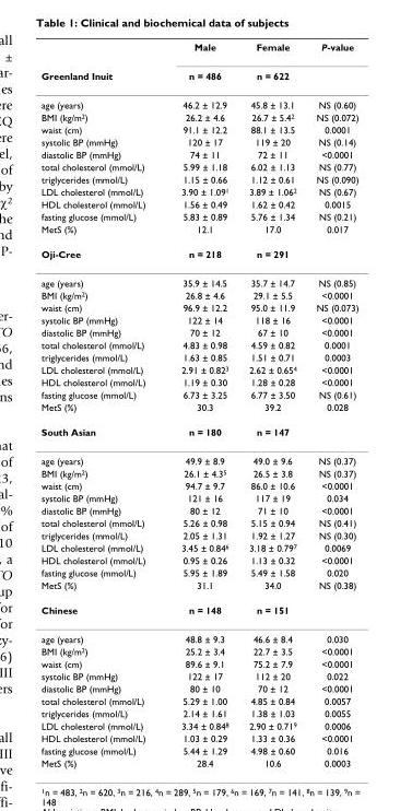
<table><thead><tr><td rowspan="2">Greenland Inuit</td><td rowspan="2">Male n = 486</td><td rowspan="2">Female n = 622</td><td rowspan="2">P-value</td></tr><tr></tr></thead><tbody><tr><td>age (years)</td><td>46.2 ± 12.9</td><td>45.8 ± 13.1</td><td>NS (0.60)</td></tr><tr><td>BMI (kg/m<sup>2</sup>)</td><td>26.2 ± 4.6</td><td>26.7 ± 5.4<sup>2</sup></td><td>NS (0.072)</td></tr><tr><td>waist (cm)</td><td>91.1 ± 12.2</td><td>88.1 ± 13.5</td><td>0.0001</td></tr><tr><td>systolic BP (mmHg)</td><td>120 ± 17</td><td>119 ± 20</td><td>NS (0.14)</td></tr><tr><td>diastolic BP (mmHg)</td><td>74 ± 11</td><td>72 ± 11</td><td>&lt;0.0001</td></tr><tr><td>total cholesterol (mmol/L)</td><td>5.99 ± 1.18</td><td>6.02 ± 1.13</td><td>NS (0.77)</td></tr><tr><td>triglycerides (mmol/L)</td><td>1.15 ± 0.66</td><td>1.12 ± 0.61</td><td>NS (0.090)</td></tr><tr><td>LDL cholesterol (mmol/L)</td><td>3.90 ± 1.09<sup>1</sup></td><td>3.89 ± 1.06<sup>2</sup></td><td>NS (0.67)</td></tr><tr><td>HDL cholesterol (mmol/L)</td><td>1.56 ± 0.49</td><td>1.62 ± 0.42</td><td>0.0015</td></tr><tr><td>fasting glucose (mmol/L)</td><td>5.83 ± 0.89</td><td>5.76 ± 1.34</td><td>NS (0.21)</td></tr><tr><td>MetS (%)</td><td>12.1</td><td>17.0</td><td>0.017</td></tr><tr><td>Oji-Cree</td><td>n = 218</td><td>n = 291</td><td></td></tr><tr><td>age (years)</td><td>35.9 ± 14.5</td><td>35.7 ± 14.7</td><td>NS (0.85)</td></tr><tr><td>BMI (kg/m<sup>2</sup>)</td><td>26.8 ± 4.6</td><td>29.1 ± 5.5</td><td>&lt;0.0001</td></tr><tr><td>waist (cm)</td><td>96.9 ± 12.2</td><td>95.0 ± 11.9</td><td>NS (0.073)</td></tr><tr><td>systolic BP (mmHg)</td><td>122 ± 14</td><td>118 ± 16</td><td>&lt;0.0001</td></tr><tr><td>diastolic BP (mmHg)</td><td>70 ± 12</td><td>67 ± 10</td><td>&lt;0.0001</td></tr><tr><td>total cholesterol (mmol/L)</td><td>4.83 ± 0.98</td><td>4.59 ± 0.82</td><td>0.0001</td></tr><tr><td>triglycerides (mmol/L)</td><td>1.63 ± 0.85</td><td>1.51 ± 0.71</td><td>0.0003</td></tr><tr><td>LDL cholesterol (mmol/L)</td><td>2.91 ± 0.82<sup>3</sup></td><td>2.62 ± 0.65<sup>4</sup></td><td>&lt;0.0001</td></tr><tr><td>HDL cholesterol (mmol/L)</td><td>1.19 ± 0.30</td><td>1.28 ± 0.28</td><td>&lt;0.0001</td></tr><tr><td>fasting glucose (mmol/L)</td><td>6.73 ± 3.25</td><td>6.77 ± 3.50</td><td>NS (0.61)</td></tr><tr><td>MetS (%)</td><td>30.3</td><td>39.2</td><td>0.028</td></tr><tr><td>South Asian</td><td>n = 180</td><td>n = 147</td><td></td></tr><tr><td>age (years)</td><td>49.9 ± 8.9</td><td>49.0 ± 9.6</td><td>NS (0.37)</td></tr><tr><td>BMI (kg/m<sup>2</sup>)</td><td>26.1 ± 4.3<sup>5</sup></td><td>26.5 ± 3.8</td><td>NS (0.37)</td></tr><tr><td>waist (cm)</td><td>94.7 ± 9.7</td><td>86.0 ± 10.6</td><td>&lt;0.0001</td></tr><tr><td>systolic BP (mmHg)</td><td>121 ± 16</td><td>117 ± 19</td><td>0.034</td></tr><tr><td>diastolic BP (mmHg)</td><td>80 ± 12</td><td>71 ± 10</td><td>&lt;0.0001</td></tr><tr><td>total cholesterol (mmol/L)</td><td>5.26 ± 0.98</td><td>5.15 ± 0.94</td><td>NS (0.41)</td></tr><tr><td>triglycerides (mmol/L)</td><td>2.05 ± 1.31</td><td>1.92 ± 1.27</td><td>NS (0.30)</td></tr><tr><td>LDL cholesterol (mmol/L)</td><td>3.45 ± 0.84<sup>6</sup></td><td>3.18 ± 0.79<sup>7</sup></td><td>0.0069</td></tr><tr><td>HDL cholesterol (mmol/L)</td><td>0.95 ± 0.26</td><td>1.13 ± 0.32</td><td>&lt;0.0001</td></tr><tr><td>fasting glucose (mmol/L)</td><td>5.95 ± 1.89</td><td>5.49 ± 1.58</td><td>0.020</td></tr><tr><td>MetS (%)</td><td>31.1</td><td>34.0</td><td>NS (0.38)</td></tr><tr><td>Chinese</td><td>n = 148</td><td>n = 151</td><td></td></tr><tr><td>age (years)</td><td>48.8 ± 9.3</td><td>46.6 ± 8.4</td><td>0.030</td></tr><tr><td>BMI (kg/m<sup>2</sup>)</td><td>25.2 ± 3.4</td><td>22.7 ± 3.5</td><td>&lt;0.0001</td></tr><tr><td>waist (cm)</td><td>89.6 ± 9.1</td><td>75.2 ± 7.9</td><td>&lt;0.0001</td></tr><tr><td>systolic BP (mmHg)</td><td>122 ± 17</td><td>112 ± 20</td><td>0.022</td></tr><tr><td>diastolic BP (mmHg)</td><td>80 ± 10</td><td>70 ± 12</td><td>&lt;0.0001</td></tr><tr><td>total cholesterol (mmol/L)</td><td>5.29 ± 1.00</td><td>4.85 ± 0.84</td><td>0.0057</td></tr><tr><td>triglycerides (mmol/L)</td><td>2.14 ± 1.61</td><td>1.38 ± 1.03</td><td>0.0055</td></tr><tr><td>LDL cholesterol (mmol/L)</td><td>3.34 ± 0.84<sup>8</sup></td><td>2.90 ± 0.71<sup>9</sup></td><td>0.0006</td></tr><tr><td>HDL cholesterol (mmol/L)</td><td>1.03 ± 0.29</td><td>1.33 ± 0.36</td><td>&lt;0.0001</td></tr><tr><td>fasting glucose (mmol/L)</td><td>5.44 ± 1.29</td><td>4.98 ± 0.60</td><td>0.016</td></tr><tr><td>MetS (%)</td><td>28.4</td><td>10.6</td><td>0.0003</td></tr></tbody></table>